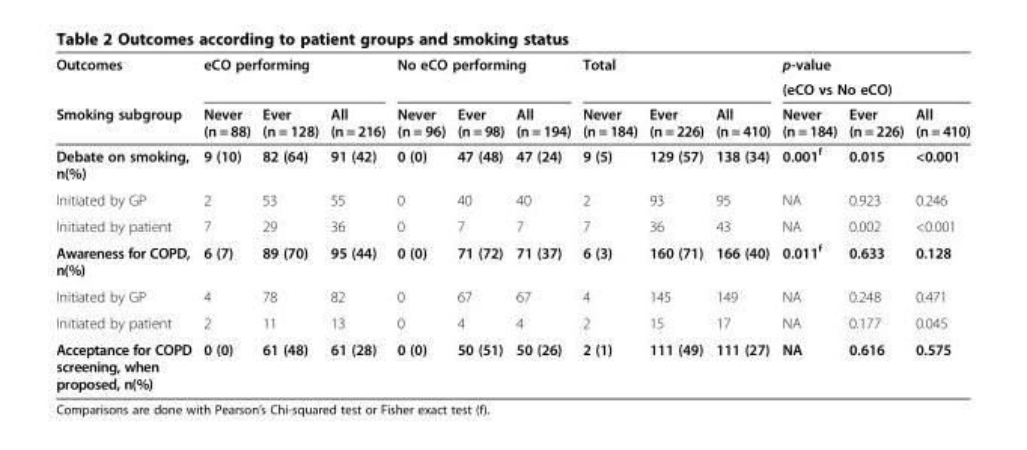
<table><thead><tr><td rowspan="3">Outcomes Smoking subgroup</td><td rowspan="2" colspan="3">eCO performing</td><td rowspan="2" colspan="3">No eCO performing</td><td rowspan="2" colspan="3">Total</td><td rowspan="2" colspan="3">p-value (eCO vs No eCO)</td></tr><tr></tr><tr><td>Never (n = 88)</td><td>Ever (n = 128)</td><td>All (n = 216)</td><td>Never (n = 96)</td><td>Ever (n = 98)</td><td>All (n = 194)</td><td>Never (n = 184)</td><td>Ever (n = 226)</td><td>All (n = 410)</td><td>Never (n = 184)</td><td>Ever (n = 226)</td><td>All (n = 410)</td></tr></thead><tbody><tr><td>Debate on smoking, n(%)</td><td>9 (10)</td><td>82 (64)</td><td>91 (42)</td><td>0 (0)</td><td>47 (48)</td><td>47 (24)</td><td>9 (5)</td><td>129 (57)</td><td>138 (34)</td><td>0.001<sup>f</sup></td><td>0.015</td><td>&lt;0.001</td></tr><tr><td>Initiated by GP</td><td>2</td><td>53</td><td>55</td><td>0</td><td>40</td><td>40</td><td>2</td><td>93</td><td>95</td><td>NA</td><td>0.923</td><td>0.246</td></tr><tr><td>Initiated by patient</td><td>7</td><td>29</td><td>36</td><td>0</td><td>7</td><td>7</td><td>7</td><td>36</td><td>43</td><td>NA</td><td>0.002</td><td>&lt;0.001</td></tr><tr><td>Awareness for COPD, n(%)</td><td>6 (7)</td><td>89 (70)</td><td>95 (44)</td><td>0 (0)</td><td>71 (72)</td><td>71 (37)</td><td>6 (3)</td><td>160 (71)</td><td>166 (40)</td><td>0.011<sup>f</sup></td><td>0.633</td><td>0.128</td></tr><tr><td>Initiated by GP</td><td>4</td><td>78</td><td>82</td><td>0</td><td>67</td><td>67</td><td>4</td><td>145</td><td>149</td><td>NA</td><td>0.248</td><td>0.471</td></tr><tr><td>Initiated by patient</td><td>2</td><td>11</td><td>13</td><td>0</td><td>4</td><td>4</td><td>2</td><td>15</td><td>17</td><td>NA</td><td>0.177</td><td>0.045</td></tr><tr><td>Acceptance for COPD screening, when proposed, n(%)</td><td>0 (0)</td><td>61 (48)</td><td>61 (28)</td><td>0 (0)</td><td>50 (51)</td><td>50 (26)</td><td>2 (1)</td><td>111 (49)</td><td>111 (27)</td><td>NA</td><td>0.616</td><td>0.575</td></tr></tbody></table>